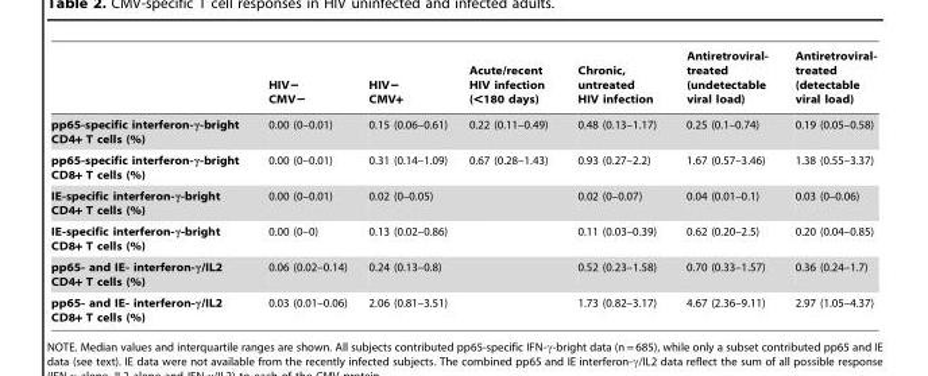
<table><thead><tr><td></td><td>HIV− CMV−</td><td>HIV− CMV+</td><td>Acute/recent HIV infection (&lt;180 days)</td><td>Chronic, untreated HIV infection</td><td>Antiretroviral- treated (undetectable viral load)</td><td>Antiretroviral- treated (detectable viral load)</td></tr></thead><tbody><tr><td>pp65-specific interferon-γ-bright CD4+ T cells (%)</td><td>0.00 (0–0.01)</td><td>0.15 (0.06–0.61)</td><td>0.22 (0.11–0.49)</td><td>0.48 (0.13–1.17)</td><td>0.25 (0.1–0.74)</td><td>0.19 (0.05–0.58)</td></tr><tr><td>pp65-specific interferon-γ-bright CD8+ T cells (%)</td><td>0.00 (0–0.01)</td><td>0.31 (0.14–1.09)</td><td>0.67 (0.28–1.43)</td><td>0.93 (0.27–2.2)</td><td>1.67 (0.57–3.46)</td><td>1.38 (0.55–3.37)</td></tr><tr><td>IE-specific interferon-γ-bright CD4+ T cells (%)</td><td>0.00 (0–0.01)</td><td>0.02 (0–0.05)</td><td></td><td>0.02 (0–0.07)</td><td>0.04 (0.01–0.1)</td><td>0.03 (0–0.06)</td></tr><tr><td>IE-specific interferon-γ-bright CD8+ T cells (%)</td><td>0.00 (0–0)</td><td>0.13 (0.02–0.86)</td><td></td><td>0.11 (0.03–0.39)</td><td>0.62 (0.20–2.5)</td><td>0.20 (0.04–0.85)</td></tr><tr><td>pp65- and IE- interferon-γ/IL2 CD4+ T cells (%)</td><td>0.06 (0.02–0.14)</td><td>0.24 (0.13–0.8)</td><td></td><td>0.52 (0.23–1.58)</td><td>0.70 (0.33–1.57)</td><td>0.36 (0.24–1.7)</td></tr><tr><td>pp65- and IE- interferon-γ/IL2 CD8+ T cells (%)</td><td>0.03 (0.01–0.06)</td><td>2.06 (0.81–3.51)</td><td></td><td>1.73 (0.82–3.17)</td><td>4.67 (2.36–9.11)</td><td>2.97 (1.05–4.37)</td></tr></tbody></table>